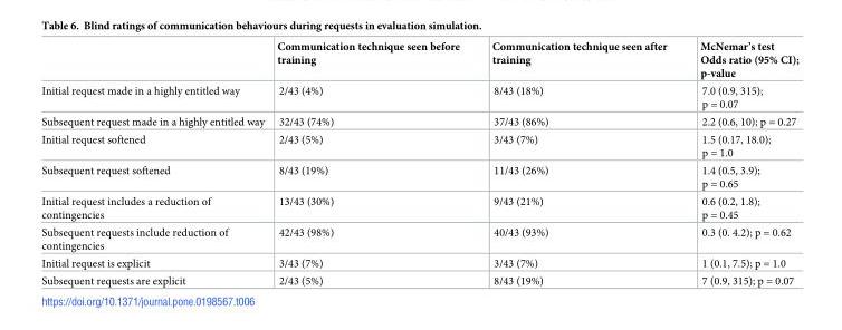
<table><thead><tr><td></td><td>Communication technique seen before training</td><td>Communication technique seen after training</td><td>McNemar’s test Odds ratio (95% CI); p-value</td></tr></thead><tbody><tr><td>Initial request made in a highly entitled way</td><td>2/43 (4%)</td><td>8/43 (18%)</td><td>7.0 (0.9, 315); p = 0.07</td></tr><tr><td>Subsequent request made in a highly entitled way</td><td>32/43 (74%)</td><td>37/43 (86%)</td><td>2.2 (0.6, 10); p = 0.27</td></tr><tr><td>Initial request softened</td><td>2/43 (5%)</td><td>3/43 (7%)</td><td>1.5 (0.17, 18.0); p = 1.0</td></tr><tr><td>Subsequent request softened</td><td>8/43 (19%)</td><td>11/43 (26%)</td><td>1.4 (0.5, 3.9); p = 0.65</td></tr><tr><td>Initial request includes a reduction of contingencies</td><td>13/43 (30%)</td><td>9/43 (21%)</td><td>0.6 (0.2, 1.8); p = 0.45</td></tr><tr><td>Subsequent requests include reduction of contingencies</td><td>42/43 (98%)</td><td>40/43 (93%)</td><td>0.3 (0. 4.2); p = 0.62</td></tr><tr><td>Initial request is explicit</td><td>3/43 (7%)</td><td>3/43 (7%)</td><td>1 (0.1, 7.5); p = 1.0</td></tr><tr><td>Subsequent requests are explicit</td><td>2/43 (5%)</td><td>8/43 (19%)</td><td>7 (0.9, 315); p = 0.07</td></tr></tbody></table>